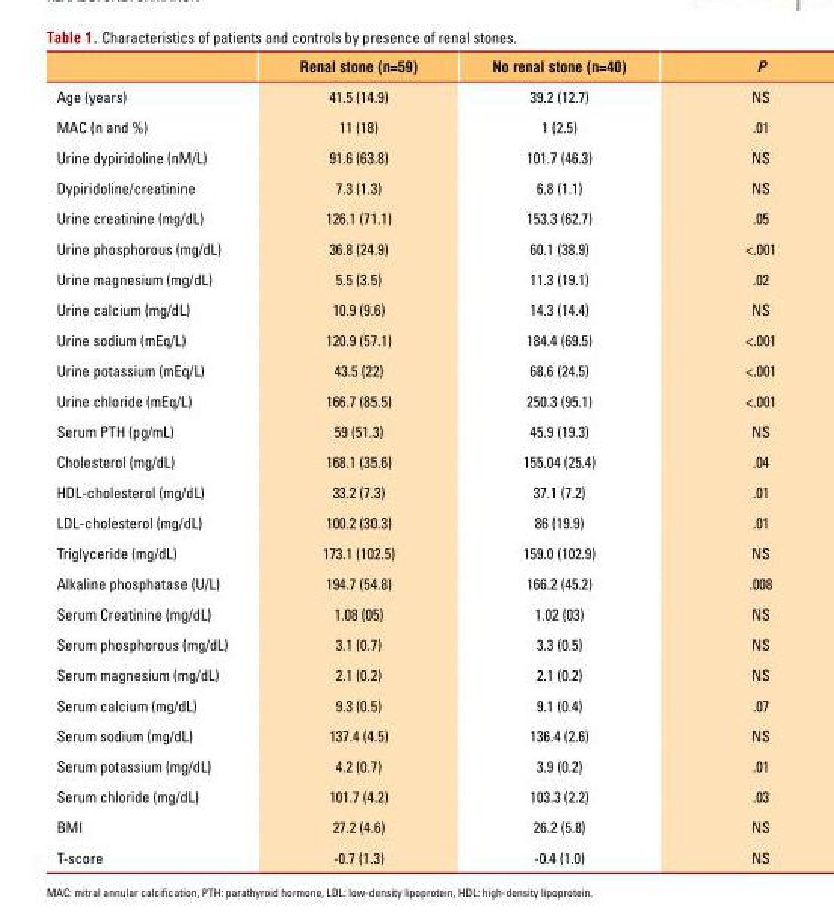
<table><thead><tr><td></td><td>Renal stone (n=59)</td><td>No renal stone (n=40)</td><td>P</td></tr></thead><tbody><tr><td>Age (years)</td><td>41.5 (14.9)</td><td>39.2 (12.7)</td><td>NS</td></tr><tr><td>MAC (n and %)</td><td>11 (18)</td><td>1 (2.5)</td><td>.01</td></tr><tr><td>Urine dypiridoline (nM/L)</td><td>91.6 (63.8)</td><td>101.7 (46.3)</td><td>NS</td></tr><tr><td>Dypiridoline/creatinine</td><td>7.3 (1.3)</td><td>6.8 (1.1)</td><td>NS</td></tr><tr><td>Urine creatinine (mg/dL)</td><td>126.1 (71.1)</td><td>153.3 (62.7)</td><td>.05</td></tr><tr><td>Urine phosphorous (mg/dL)</td><td>36.8 (24.9)</td><td>60.1 (38.9)</td><td>&lt;.001</td></tr><tr><td>Urine magnesium (mg/dL)</td><td>5.5 (3.5)</td><td>11.3 (19.1)</td><td>.02</td></tr><tr><td>Urine calcium (mg/dL)</td><td>10.9 (9.6)</td><td>14.3 (14.4)</td><td>NS</td></tr><tr><td>Urine sodium (mEq/L)</td><td>120.9 (57.1)</td><td>184.4 (69.5)</td><td>&lt;.001</td></tr><tr><td>Urine potassium (mEq/L)</td><td>43.5 (22)</td><td>68.6 (24.5)</td><td>&lt;.001</td></tr><tr><td>Urine chloride (mEq/L)</td><td>166.7 (85.5)</td><td>250.3 (95.1)</td><td>&lt;.001</td></tr><tr><td>Serum PTH (pg/mL)</td><td>59 (51.3)</td><td>45.9 (19.3)</td><td>NS</td></tr><tr><td>Cholesterol (mg/dL)</td><td>168.1 (35.6)</td><td>155.04 (25.4)</td><td>.04</td></tr><tr><td>HDL-cholesterol (mg/dL)</td><td>33.2 (7.3)</td><td>37.1 (7.2)</td><td>.01</td></tr><tr><td>LDL-cholesterol (mg/dL)</td><td>100.2 (30.3)</td><td>86 (19.9)</td><td>.01</td></tr><tr><td>Triglyceride (mg/dL)</td><td>173.1 (102.5)</td><td>159.0 (102.9)</td><td>NS</td></tr><tr><td>Alkaline phosphatase (U/L)</td><td>194.7 (54.8)</td><td>166.2 (45.2)</td><td>.008</td></tr><tr><td>Serum Creatinine (mg/dL)</td><td>1.08 (05)</td><td>1.02 (03)</td><td>NS</td></tr><tr><td>Serum phosphorous (mg/dL)</td><td>3.1 (0.7)</td><td>3.3 (0.5)</td><td>NS</td></tr><tr><td>Serum magnesium (mg/dL)</td><td>2.1 (0.2)</td><td>2.1 (0.2)</td><td>NS</td></tr><tr><td>Serum calcium (mg/dL)</td><td>9.3 (0.5)</td><td>9.1 (0.4)</td><td>.07</td></tr><tr><td>Serum sodium (mg/dL)</td><td>137.4 (4.5)</td><td>136.4 (2.6)</td><td>NS</td></tr><tr><td>Serum potassium (mg/dL)</td><td>4.2 (0.7)</td><td>3.9 (0.2)</td><td>.01</td></tr><tr><td>Serum chloride (mg/dL)</td><td>101.7 (4.2)</td><td>103.3 (2.2)</td><td>.03</td></tr><tr><td>BMI</td><td>27.2 (4.6)</td><td>26.2 (5.8)</td><td>NS</td></tr><tr><td>T-score</td><td>-0.7 (1.3)</td><td>-0.4 (1.0)</td><td>NS</td></tr></tbody></table>